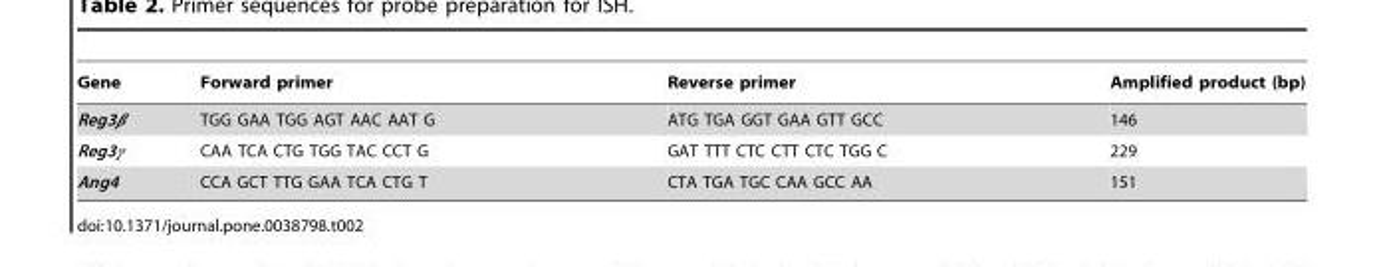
<table><thead><tr><td>Gene</td><td>Forward primer</td><td>Reverse primer</td><td>Amplified product (bp)</td></tr></thead><tbody><tr><td>Reg3β</td><td>TGG GAA TGG AGT AAC AAT G</td><td>ATG TGA GGT GAA GTT GCC</td><td>146</td></tr><tr><td>Reg3γ</td><td>CAA TCA CTG TGG TAC CCT G</td><td>GAT TTT CTC CTT CTC TGG C</td><td>229</td></tr><tr><td>Ang4</td><td>CCA GCT TTG GAA TCA CTG T</td><td>CTA TGA TGC CAA GCC AA</td><td>151</td></tr></tbody></table>